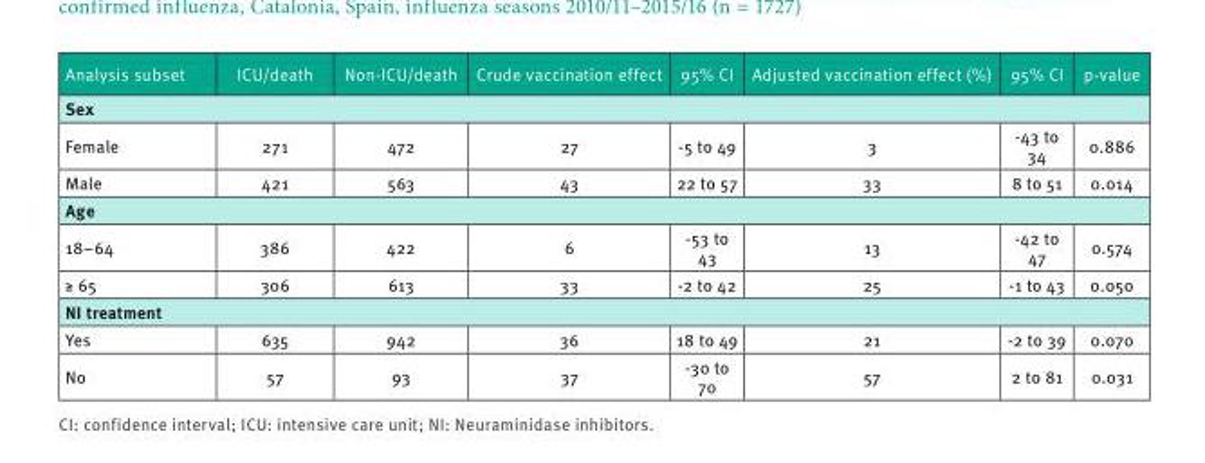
<table><thead><tr><td>Analysis subset</td><td>ICU/death</td><td>Non-ICU/death</td><td>Crude vaccination effect</td><td>95% CI</td><td>Adjusted vaccination effect (%)</td><td>95% CI</td><td>p-value</td></tr></thead><tbody><tr><td colspan="8">Sex</td></tr><tr><td>Female</td><td>271</td><td>472</td><td>27</td><td>-5 to 49</td><td>3</td><td>-43 to 34</td><td>0.886</td></tr><tr><td>Male</td><td>421</td><td>563</td><td>43</td><td>22 to 57</td><td>33</td><td>8 to 51</td><td>0.014</td></tr><tr><td colspan="8">Age</td></tr><tr><td>18–64</td><td>386</td><td>422</td><td>6</td><td>-53 to 43</td><td>13</td><td>-42 to 47</td><td>0.574</td></tr><tr><td>≥ 65</td><td>306</td><td>613</td><td>33</td><td>-2 to 42</td><td>25</td><td>-1 to 43</td><td>0.050</td></tr><tr><td colspan="8">NI treatment</td></tr><tr><td>Yes</td><td>635</td><td>942</td><td>36</td><td>18 to 49</td><td>21</td><td>-2 to 39</td><td>0.070</td></tr><tr><td>No</td><td>57</td><td>93</td><td>37</td><td>-30 to 70</td><td>57</td><td>2 to 81</td><td>0.031</td></tr></tbody></table>